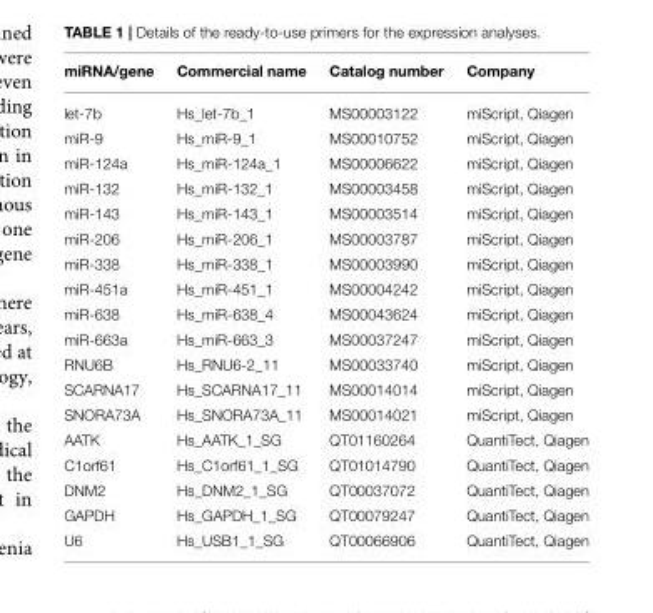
<table><thead><tr><td>miRNA/gene</td><td>Commercial name</td><td>Catalog number</td><td>Company</td></tr></thead><tbody><tr><td>let-7b</td><td>Hs_let-7b_1</td><td>MS00003122</td><td>miScript, Qiagen</td></tr><tr><td>miR-9</td><td>Hs_miR-9_1</td><td>MS00010752</td><td>miScript, Qiagen</td></tr><tr><td>miR-124a</td><td>Hs_miR-124a_1</td><td>MS00006622</td><td>miScript, Qiagen</td></tr><tr><td>miR-132</td><td>Hs_miR-132_1</td><td>MS00003458</td><td>miScript, Qiagen</td></tr><tr><td>miR-143</td><td>Hs_miR-143_1</td><td>MS00003514</td><td>miScript, Qiagen</td></tr><tr><td>miR-206</td><td>Hs_miR-206_1</td><td>MS00003787</td><td>miScript, Qiagen</td></tr><tr><td>miR-338</td><td>Hs_miR-338_1</td><td>MS00003990</td><td>miScript, Qiagen</td></tr><tr><td>miR-451a</td><td>Hs_miR-451_1</td><td>MS00004242</td><td>miScript, Qiagen</td></tr><tr><td>miR-638</td><td>Hs_miR-638_4</td><td>MS00043624</td><td>miScript, Qiagen</td></tr><tr><td>miR-663a</td><td>Hs_miR-663_3</td><td>MS00037247</td><td>miScript, Qiagen</td></tr><tr><td>RNU6B</td><td>Hs_RNU6-2_11</td><td>MS00033740</td><td>miScript, Qiagen</td></tr><tr><td>SCARNA17</td><td>Hs_SCARNA17_11</td><td>MS00014014</td><td>miScript, Qiagen</td></tr><tr><td>SNORA73A</td><td>Hs_SNORA73A_11</td><td>MS00014021</td><td>miScript, Qiagen</td></tr><tr><td>AATK</td><td>Hs_AATK_1_SG</td><td>QT01160264</td><td>QuantiTect, Qiagen</td></tr><tr><td>C1orf61</td><td>Hs_C1orf61_1_SG</td><td>QT01014790</td><td>QuantiTect, Qiagen</td></tr><tr><td>DNM2</td><td>Hs_DNM2_1_SG</td><td>QT00037072</td><td>QuantiTect, Qiagen</td></tr><tr><td>GAPDH</td><td>Hs_GAPDH_1_SG</td><td>QT00079247</td><td>QuantiTect, Qiagen</td></tr><tr><td>U6</td><td>Hs_USB1_1_SG</td><td>QT00066906</td><td>QuantiTect, Qiagen</td></tr></tbody></table>